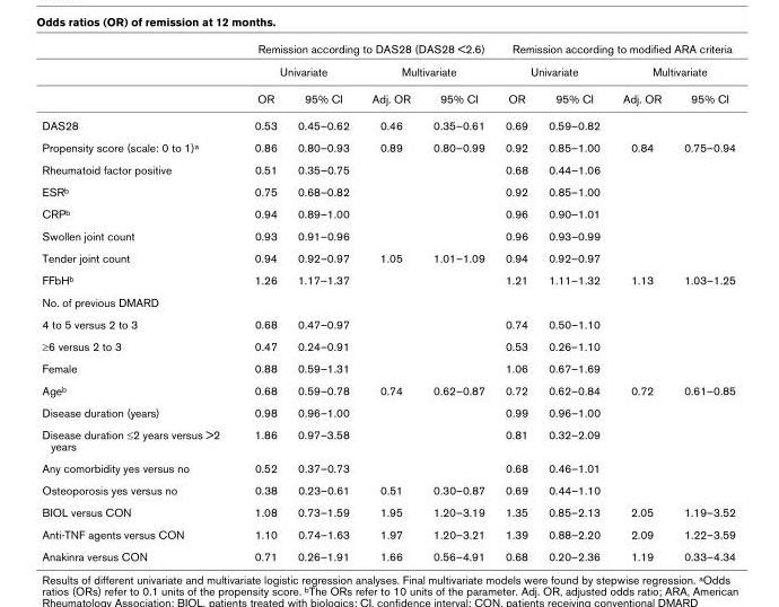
<table><thead><tr><td rowspan="3"></td><td colspan="4">Remission according to DAS28 (DAS28 &lt;2.6)</td><td colspan="4">Remission according to modified ARA criteria</td></tr><tr><td colspan="2">Univariate</td><td colspan="2">Multivariate</td><td colspan="2">Univariate</td><td colspan="2">Multivariate</td></tr><tr><td>OR</td><td>95% CI</td><td>Adj. OR</td><td>95% CI</td><td>OR</td><td>95% CI</td><td>Adj. OR</td><td>95% CI</td></tr></thead><tbody><tr><td>DAS28</td><td>0.53</td><td>0.45–0.62</td><td>0.46</td><td>0.35–0.61</td><td>0.69</td><td>0.59–0.82</td><td></td><td></td></tr><tr><td>Propensity score (scale: 0 to 1)a</td><td>0.86</td><td>0.80–0.93</td><td>0.89</td><td>0.80–0.99</td><td>0.92</td><td>0.85–1.00</td><td>0.84</td><td>0.75–0.94</td></tr><tr><td>Rheumatoid factor positive</td><td>0.51</td><td>0.35–0.75</td><td></td><td></td><td>0.68</td><td>0.44–1.06</td><td></td><td></td></tr><tr><td>ESRb</td><td>0.75</td><td>0.68–0.82</td><td></td><td></td><td>0.92</td><td>0.85–1.00</td><td></td><td></td></tr><tr><td>CRPb</td><td>0.94</td><td>0.89–1.00</td><td></td><td></td><td>0.96</td><td>0.90–1.01</td><td></td><td></td></tr><tr><td>Swollen joint count</td><td>0.93</td><td>0.91–0.96</td><td></td><td></td><td>0.96</td><td>0.93–0.99</td><td></td><td></td></tr><tr><td>Tender joint count</td><td>0.94</td><td>0.92–0.97</td><td>1.05</td><td>1.01–1.09</td><td>0.94</td><td>0.92–0.97</td><td></td><td></td></tr><tr><td>FFbHb</td><td>1.26</td><td>1.17–1.37</td><td></td><td></td><td>1.21</td><td>1.11–1.32</td><td>1.13</td><td>1.03–1.25</td></tr><tr><td colspan="9">No. of previous DMARD</td></tr><tr><td>4 to 5 versus 2 to 3</td><td>0.68</td><td>0.47–0.97</td><td></td><td></td><td>0.74</td><td>0.50–1.10</td><td></td><td></td></tr><tr><td>≥6 versus 2 to 3</td><td>0.47</td><td>0.24–0.91</td><td></td><td></td><td>0.53</td><td>0.26–1.10</td><td></td><td></td></tr><tr><td>Female</td><td>0.88</td><td>0.59–1.31</td><td></td><td></td><td>1.06</td><td>0.67–1.69</td><td></td><td></td></tr><tr><td>Ageb</td><td>0.68</td><td>0.59–0.78</td><td>0.74</td><td>0.62–0.87</td><td>0.72</td><td>0.62–0.84</td><td>0.72</td><td>0.61–0.85</td></tr><tr><td>Disease duration (years)</td><td>0.98</td><td>0.96–1.00</td><td></td><td></td><td>0.99</td><td>0.96–1.00</td><td></td><td></td></tr><tr><td>Disease duration ≤2 years versus &gt;2 years</td><td>1.86</td><td>0.97–3.58</td><td></td><td></td><td>0.81</td><td>0.32–2.09</td><td></td><td></td></tr><tr><td>Any comorbidity yes versus no</td><td>0.52</td><td>0.37–0.73</td><td></td><td></td><td>0.68</td><td>0.46–1.01</td><td></td><td></td></tr><tr><td>Osteoporosis yes versus no</td><td>0.38</td><td>0.23–0.61</td><td>0.51</td><td>0.30–0.87</td><td>0.69</td><td>0.44–1.10</td><td></td><td></td></tr><tr><td>BIOL versus CON</td><td>1.08</td><td>0.73–1.59</td><td>1.95</td><td>1.20–3.19</td><td>1.35</td><td>0.85–2.13</td><td>2.05</td><td>1.19–3.52</td></tr><tr><td>Anti-TNF agents versus CON</td><td>1.10</td><td>0.74–1.63</td><td>1.97</td><td>1.20–3.21</td><td>1.39</td><td>0.88–2.20</td><td>2.09</td><td>1.22–3.59</td></tr><tr><td>Anakinra versus CON</td><td>0.71</td><td>0.26–1.91</td><td>1.66</td><td>0.56–4.91</td><td>0.68</td><td>0.20–2.36</td><td>1.19</td><td>0.33–4.34</td></tr></tbody></table>